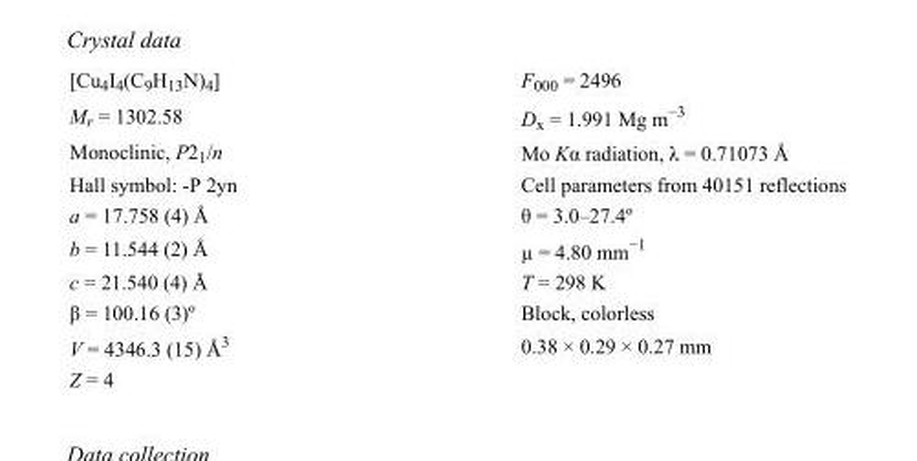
<table><tbody><tr><td>[Cu<sub>4</sub>I<sub>4</sub>(C<sub>9</sub>H<sub>13</sub>N)<sub>4</sub>]</td><td>F000 = 2496</td></tr><tr><td>M<sub>r</sub> = 1302.58</td><td>D<sub>x</sub> = 1.991 Mg m<sup>−3</sup></td></tr><tr><td>Monoclinic, P2<sub>1</sub>/n</td><td>Mo Kα radiation, λ = 0.71073 Å</td></tr><tr><td>Hall symbol: -P 2yn</td><td>Cell parameters from 40151 reflections</td></tr><tr><td>a = 17.758 (4) Å</td><td>θ = 3.0–27.4º</td></tr><tr><td>b = 11.544 (2) Å</td><td>µ = 4.80 mm<sup>−1</sup></td></tr><tr><td>c = 21.540 (4) Å</td><td>T = 298 K</td></tr><tr><td>β = 100.16 (3)º</td><td>Block, colorless</td></tr><tr><td>V = 4346.3 (15) Å<sup>3</sup></td><td>0.38 × 0.29 × 0.27 mm</td></tr><tr><td>Z = 4</td><td></td></tr></tbody></table>